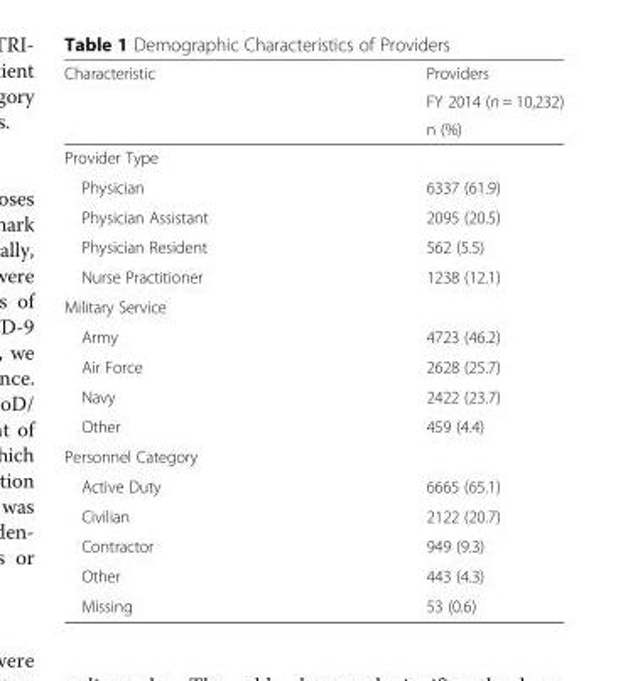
<table><thead><tr><td rowspan="3">Characteristic</td><td rowspan="3">Providers FY 2014 (n = 10,232) n (%)</td></tr><tr></tr><tr></tr></thead><tbody><tr><td colspan="2">Provider Type</td></tr><tr><td>Physician</td><td>6337 (61.9)</td></tr><tr><td>Physician Assistant</td><td>2095 (20.5)</td></tr><tr><td>Physician Resident</td><td>562 (5.5)</td></tr><tr><td>Nurse Practitioner</td><td>1238 (12.1)</td></tr><tr><td colspan="2">Military Service</td></tr><tr><td>Army</td><td>4723 (46.2)</td></tr><tr><td>Air Force</td><td>2628 (25.7)</td></tr><tr><td>Navy</td><td>2422 (23.7)</td></tr><tr><td>Other</td><td>459 (4.4)</td></tr><tr><td colspan="2">Personnel Category</td></tr><tr><td>Active Duty</td><td>6665 (65.1)</td></tr><tr><td>Civilian</td><td>2122 (20.7)</td></tr><tr><td>Contractor</td><td>949 (9.3)</td></tr><tr><td>Other</td><td>443 (4.3)</td></tr><tr><td>Missing</td><td>53 (0.6)</td></tr></tbody></table>